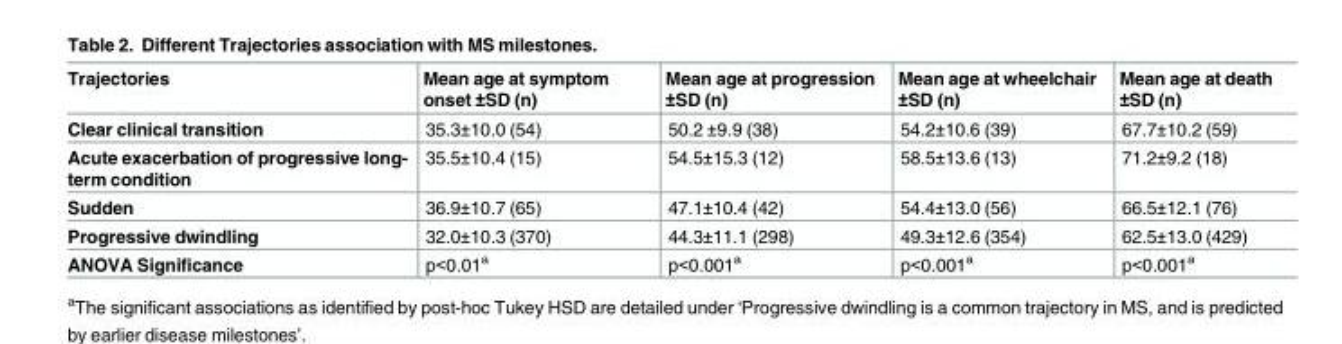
<table><thead><tr><td>Trajectories</td><td>Mean age at symptom onset ±SD (n)</td><td>Mean age at progression ±SD (n)</td><td>Mean age at wheelchair ±SD (n)</td><td>Mean age at death ±SD (n)</td></tr></thead><tbody><tr><td>Clear clinical transition</td><td>35.3±10.0 (54)</td><td>50.2 ±9.9 (38)</td><td>54.2±10.6 (39)</td><td>67.7±10.2 (59)</td></tr><tr><td>Acute exacerbation of progressive long- term condition</td><td>35.5±10.4 (15)</td><td>54.5±15.3 (12)</td><td>58.5±13.6 (13)</td><td>71.2±9.2 (18)</td></tr><tr><td>Sudden</td><td>36.9±10.7 (65)</td><td>47.1±10.4 (42)</td><td>54.4±13.0 (56)</td><td>66.5±12.1 (76)</td></tr><tr><td>Progressive dwindling</td><td>32.0±10.3 (370)</td><td>44.3±11.1 (298)</td><td>49.3±12.6 (354)</td><td>62.5±13.0 (429)</td></tr><tr><td>ANOVA Significance</td><td>p&lt;0.01<sup>a</sup></td><td>p&lt;0.001<sup>a</sup></td><td>p&lt;0.001<sup>a</sup></td><td>p&lt;0.001<sup>a</sup></td></tr></tbody></table>